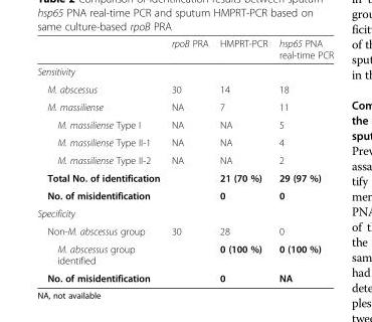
<table><thead><tr><td></td><td>rpoB PRA</td><td>HMPRT-PCR</td><td>hsp65 PNA real-time PCR</td></tr></thead><tbody><tr><td colspan="4">Sensitivity</td></tr><tr><td>M. abscessus</td><td>30</td><td>14</td><td>18</td></tr><tr><td>M. massiliense</td><td>NA</td><td>7</td><td>11</td></tr><tr><td>M. massiliense Type I</td><td>NA</td><td>NA</td><td>5</td></tr><tr><td>M. massiliense Type II-1</td><td>NA</td><td>NA</td><td>4</td></tr><tr><td>M. massiliense Type II-2</td><td>NA</td><td>NA</td><td>2</td></tr><tr><td>Total No. of identification</td><td></td><td>21 (70 %)</td><td>29 (97 %)</td></tr><tr><td>No. of misidentification</td><td></td><td>0</td><td>0</td></tr><tr><td colspan="4">Specificity</td></tr><tr><td>Non-M. abscessus group</td><td>30</td><td>28</td><td>0</td></tr><tr><td>M. abscessus group identified</td><td></td><td>0 (100 %)</td><td>0 (100 %)</td></tr><tr><td>No. of misidentification</td><td></td><td>0</td><td>NA</td></tr></tbody></table>